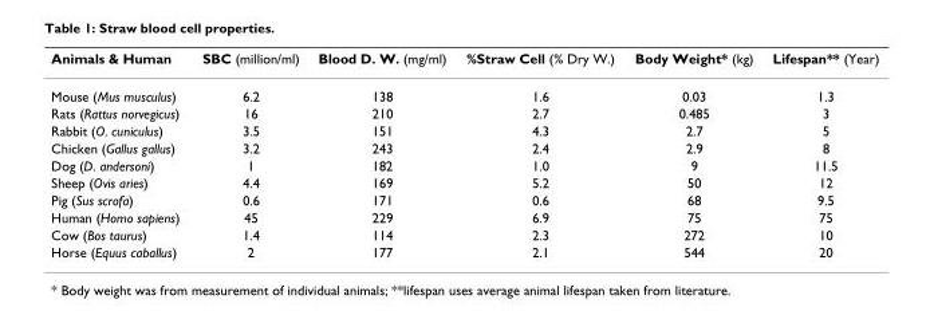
<table><thead><tr><td>Animals &amp; Human</td><td>SBC (million/ml)</td><td>Blood D. W. (mg/ml)</td><td>%Straw Cell (% Dry W.)</td><td>Body Weight* (kg)</td><td>Lifespan** (Year)</td></tr></thead><tbody><tr><td>Mouse (Mus musculus)</td><td>6.2</td><td>138</td><td>1.6</td><td>0.03</td><td>1.3</td></tr><tr><td>Rats (Rattus norvegicus)</td><td>16</td><td>210</td><td>2.7</td><td>0.485</td><td>3</td></tr><tr><td>Rabbit (O. cuniculus)</td><td>3.5</td><td>151</td><td>4.3</td><td>2.7</td><td>5</td></tr><tr><td>Chicken (Gallus gallus)</td><td>3.2</td><td>243</td><td>2.4</td><td>2.9</td><td>8</td></tr><tr><td>Dog (D. andersoni)</td><td>1</td><td>182</td><td>1.0</td><td>9</td><td>11.5</td></tr><tr><td>Sheep (Ovis aries)</td><td>4.4</td><td>169</td><td>5.2</td><td>50</td><td>12</td></tr><tr><td>Pig (Sus scrofa)</td><td>0.6</td><td>171</td><td>0.6</td><td>68</td><td>9.5</td></tr><tr><td>Human (Homo sapiens)</td><td>45</td><td>229</td><td>6.9</td><td>75</td><td>75</td></tr><tr><td>Cow (Bos taurus)</td><td>1.4</td><td>114</td><td>2.3</td><td>272</td><td>10</td></tr><tr><td>Horse (Equus caballus)</td><td>2</td><td>177</td><td>2.1</td><td>544</td><td>20</td></tr></tbody></table>